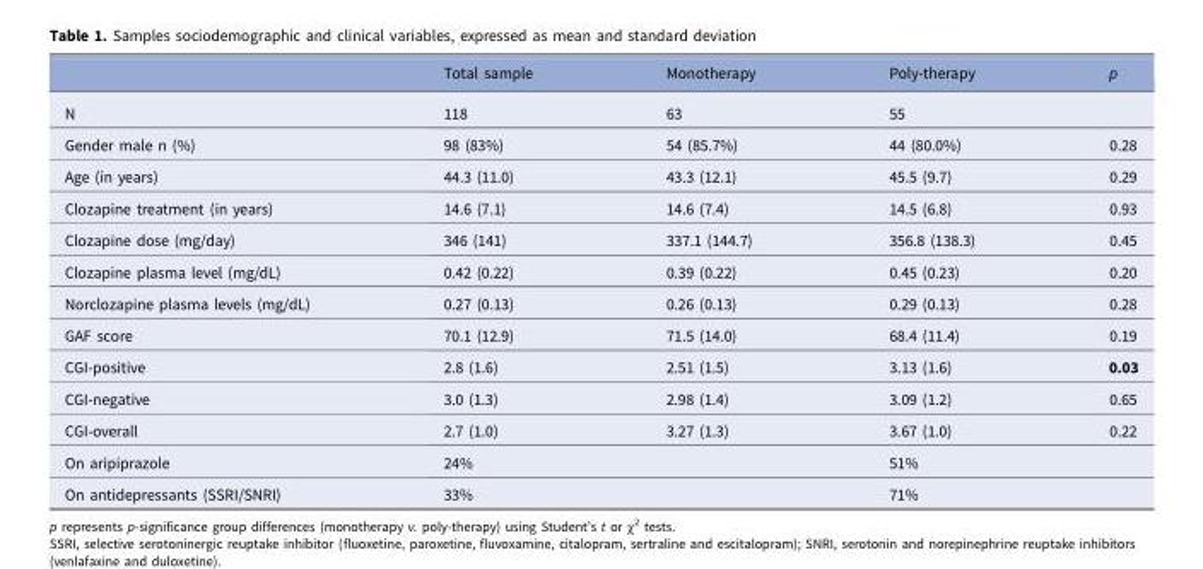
<table><thead><tr><td></td><td>Total sample</td><td>Monotherapy</td><td>Poly-therapy</td><td>p</td></tr></thead><tbody><tr><td>N</td><td>118</td><td>63</td><td>55</td><td></td></tr><tr><td>Gender male n (%)</td><td>98 (83%)</td><td>54 (85.7%)</td><td>44 (80.0%)</td><td>0.28</td></tr><tr><td>Age (in years)</td><td>44.3 (11.0)</td><td>43.3 (12.1)</td><td>45.5 (9.7)</td><td>0.29</td></tr><tr><td>Clozapine treatment (in years)</td><td>14.6 (7.1)</td><td>14.6 (7.4)</td><td>14.5 (6.8)</td><td>0.93</td></tr><tr><td>Clozapine dose (mg/day)</td><td>346 (141)</td><td>337.1 (144.7)</td><td>356.8 (138.3)</td><td>0.45</td></tr><tr><td>Clozapine plasma level (mg/dL)</td><td>0.42 (0.22)</td><td>0.39 (0.22)</td><td>0.45 (0.23)</td><td>0.20</td></tr><tr><td>Norclozapine plasma levels (mg/dL)</td><td>0.27 (0.13)</td><td>0.26 (0.13)</td><td>0.29 (0.13)</td><td>0.28</td></tr><tr><td>GAF score</td><td>70.1 (12.9)</td><td>71.5 (14.0)</td><td>68.4 (11.4)</td><td>0.19</td></tr><tr><td>CGI-positive</td><td>2.8 (1.6)</td><td>2.51 (1.5)</td><td>3.13 (1.6)</td><td>0.03</td></tr><tr><td>CGI-negative</td><td>3.0 (1.3)</td><td>2.98 (1.4)</td><td>3.09 (1.2)</td><td>0.65</td></tr><tr><td>CGI-overall</td><td>2.7 (1.0)</td><td>3.27 (1.3)</td><td>3.67 (1.0)</td><td>0.22</td></tr><tr><td>On aripiprazole</td><td>24%</td><td></td><td>51%</td><td></td></tr><tr><td>On antidepressants (SSRI/SNRI)</td><td>33%</td><td></td><td>71%</td><td></td></tr></tbody></table>